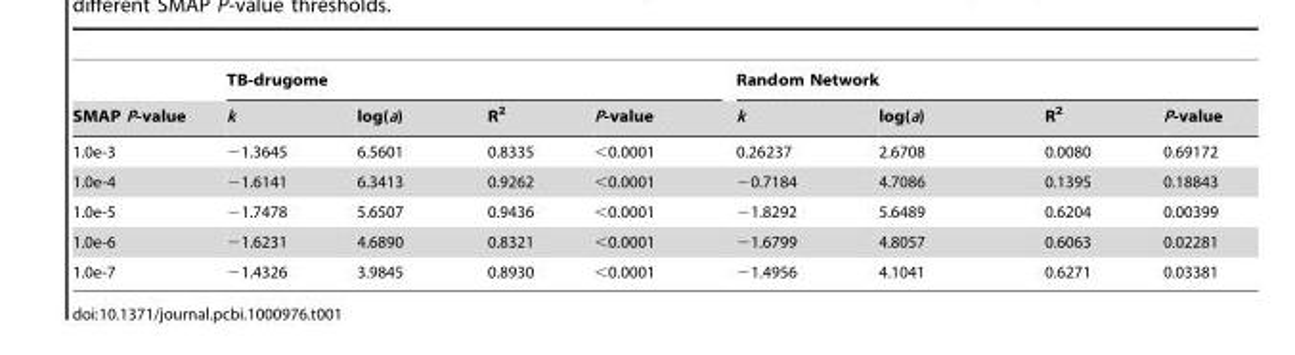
<table><thead><tr><td rowspan="2">SMAP P-value</td><td colspan="4">TB-drugome</td><td colspan="4">Random Network</td></tr><tr><td>k</td><td>log(a)</td><td>R<sup>2</sup></td><td>P-value</td><td>k</td><td>log(a)</td><td>R<sup>2</sup></td><td>P-value</td></tr></thead><tbody><tr><td>1.0e-3</td><td>−1.3645</td><td>6.5601</td><td>0.8335</td><td>&lt;0.0001</td><td>0.26237</td><td>2.6708</td><td>0.0080</td><td>0.69172</td></tr><tr><td>1.0e-4</td><td>−1.6141</td><td>6.3413</td><td>0.9262</td><td>&lt;0.0001</td><td>−0.7184</td><td>4.7086</td><td>0.1395</td><td>0.18843</td></tr><tr><td>1.0e-5</td><td>−1.7478</td><td>5.6507</td><td>0.9436</td><td>&lt;0.0001</td><td>−1.8292</td><td>5.6489</td><td>0.6204</td><td>0.00399</td></tr><tr><td>1.0e-6</td><td>−1.6231</td><td>4.6890</td><td>0.8321</td><td>&lt;0.0001</td><td>−1.6799</td><td>4.8057</td><td>0.6063</td><td>0.02281</td></tr><tr><td>1.0e-7</td><td>−1.4326</td><td>3.9845</td><td>0.8930</td><td>&lt;0.0001</td><td>−1.4956</td><td>4.1041</td><td>0.6271</td><td>0.03381</td></tr></tbody></table>